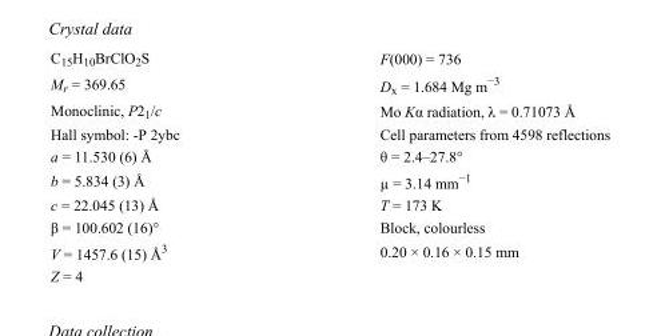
<table><tbody><tr><td>C<sub>15</sub>H<sub>10</sub>BrClO<sub>2</sub>S</td><td>F(000) = 736</td></tr><tr><td>M<sub>r</sub> = 369.65</td><td>D<sub>x</sub> = 1.684 Mg m<sup>−3</sup></td></tr><tr><td>Monoclinic, P2<sub>1</sub>/c</td><td>Mo Kα radiation, λ = 0.71073 Å</td></tr><tr><td>Hall symbol: -P 2ybc</td><td>Cell parameters from 4598 reflections</td></tr><tr><td>a = 11.530 (6) Å</td><td>θ = 2.4–27.8°</td></tr><tr><td>b = 5.834 (3) Å</td><td>µ = 3.14 mm<sup>−1</sup></td></tr><tr><td>c = 22.045 (13) Å</td><td>T = 173 K</td></tr><tr><td>β = 100.602 (16)°</td><td>Block, colourless</td></tr><tr><td>V = 1457.6 (15) Å<sup>3</sup></td><td>0.20 × 0.16 × 0.15 mm</td></tr><tr><td>Z = 4</td><td></td></tr></tbody></table>